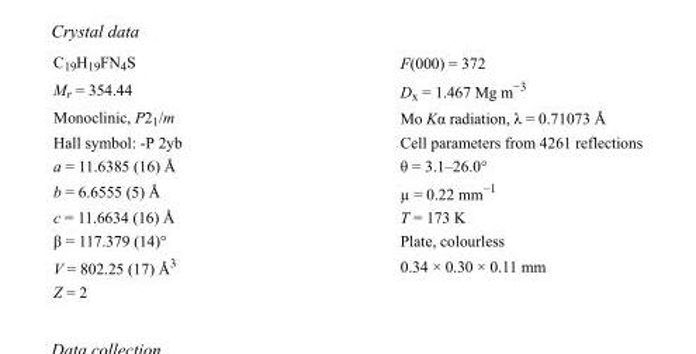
<table><tbody><tr><td>C<sub>19</sub>H<sub>19</sub>FN<sub>4</sub>S</td><td>F(000) = 372</td></tr><tr><td>M<sub>r</sub> = 354.44</td><td>D<sub>x</sub> = 1.467 Mg m<sup>−3</sup></td></tr><tr><td>Monoclinic, P2<sub>1</sub>/m</td><td>Mo Kα radiation, λ = 0.71073 Å</td></tr><tr><td>Hall symbol: -P 2yb</td><td>Cell parameters from 4261 reflections</td></tr><tr><td>a = 11.6385 (16) Å</td><td>θ = 3.1–26.0°</td></tr><tr><td>b = 6.6555 (5) Å</td><td>µ = 0.22 mm<sup>−1</sup></td></tr><tr><td>c = 11.6634 (16) Å</td><td>T = 173 K</td></tr><tr><td>β = 117.379 (14)°</td><td>Plate, colourless</td></tr><tr><td>V = 802.25 (17) Å<sup>3</sup></td><td>0.34 × 0.30 × 0.11 mm</td></tr><tr><td>Z = 2</td><td></td></tr></tbody></table>